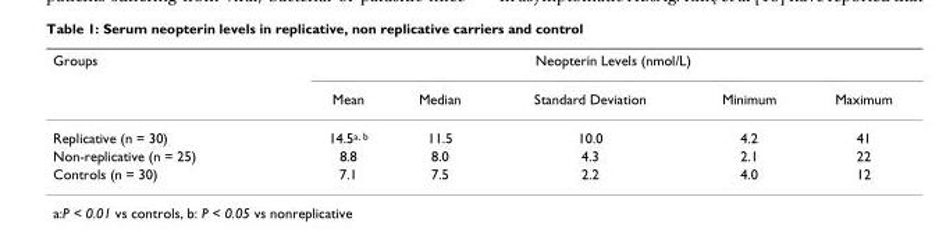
<table><thead><tr><td rowspan="2">Groups</td><td colspan="5">Neopterin Levels (nmol/L)</td></tr><tr><td>Mean</td><td>Median</td><td>Standard Deviation</td><td>Minimum</td><td>Maximum</td></tr></thead><tbody><tr><td>Replicative (n = 30)</td><td>14.5<sup>a, b</sup></td><td>11.5</td><td>10.0</td><td>4.2</td><td>41</td></tr><tr><td>Non-replicative (n = 25)</td><td>8.8</td><td>8.0</td><td>4.3</td><td>2.1</td><td>22</td></tr><tr><td>Controls (n = 30)</td><td>7.1</td><td>7.5</td><td>2.2</td><td>4.0</td><td>12</td></tr></tbody></table>